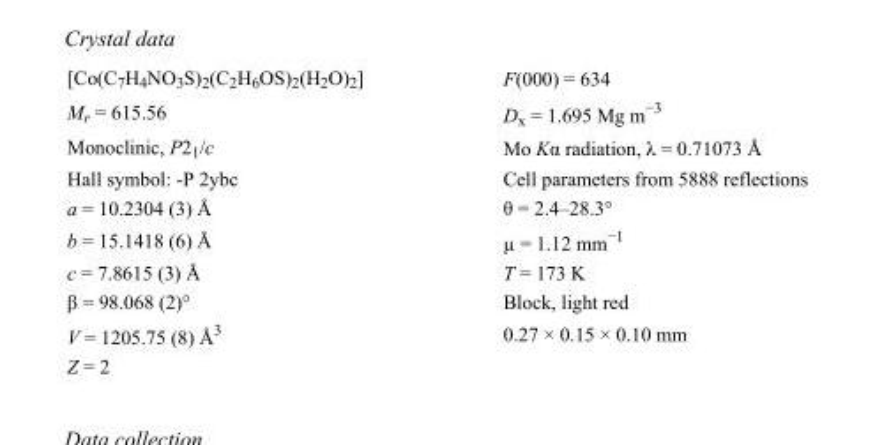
<table><tbody><tr><td>[Co(C<sub>7</sub>H<sub>4</sub>NO<sub>3</sub>S)<sub>2</sub>(C<sub>2</sub>H<sub>6</sub>OS)<sub>2</sub>(H<sub>2</sub>O)<sub>2</sub>]</td><td>F(000) = 634</td></tr><tr><td>M<sub>r</sub> = 615.56</td><td>D<sub>x</sub> = 1.695 Mg m<sup>−3</sup></td></tr><tr><td>Monoclinic, P2<sub>1</sub>/c</td><td>Mo Kα radiation, λ = 0.71073 Å</td></tr><tr><td>Hall symbol: -P 2ybc</td><td>Cell parameters from 5888 reflections</td></tr><tr><td>a = 10.2304 (3) Å</td><td>θ = 2.4–28.3°</td></tr><tr><td>b = 15.1418 (6) Å</td><td>µ = 1.12 mm<sup>−1</sup></td></tr><tr><td>c = 7.8615 (3) Å</td><td>T = 173 K</td></tr><tr><td>β = 98.068 (2)°</td><td>Block, light red</td></tr><tr><td>V = 1205.75 (8) Å<sup>3</sup></td><td>0.27 × 0.15 × 0.10 mm</td></tr><tr><td>Z = 2</td><td></td></tr></tbody></table>